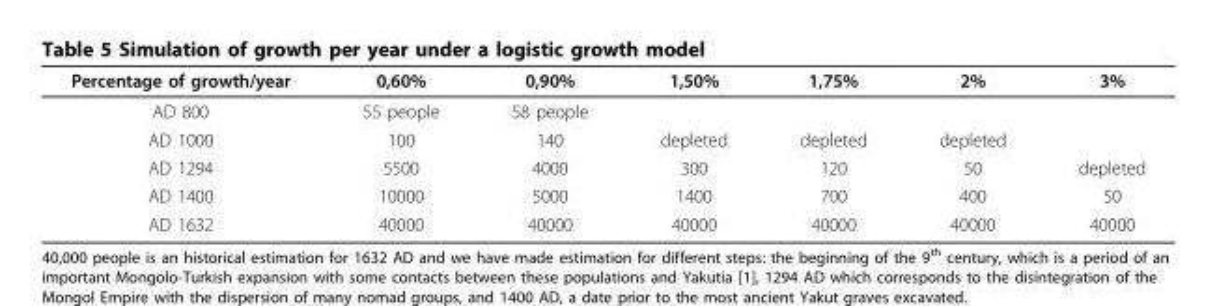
<table><thead><tr><td>Percentage of growth/year</td><td>0,60%</td><td>0,90%</td><td>1,50%</td><td>1,75%</td><td>2%</td><td>3%</td></tr></thead><tbody><tr><td>AD 800</td><td>55 people</td><td>58 people</td><td></td><td></td><td></td><td></td></tr><tr><td>AD 1000</td><td>100</td><td>140</td><td>depleted</td><td>depleted</td><td>depleted</td><td></td></tr><tr><td>AD 1294</td><td>5500</td><td>4000</td><td>300</td><td>120</td><td>50</td><td>depleted</td></tr><tr><td>AD 1400</td><td>10000</td><td>5000</td><td>1400</td><td>700</td><td>400</td><td>50</td></tr><tr><td>AD 1632</td><td>40000</td><td>40000</td><td>40000</td><td>40000</td><td>40000</td><td>40000</td></tr></tbody></table>